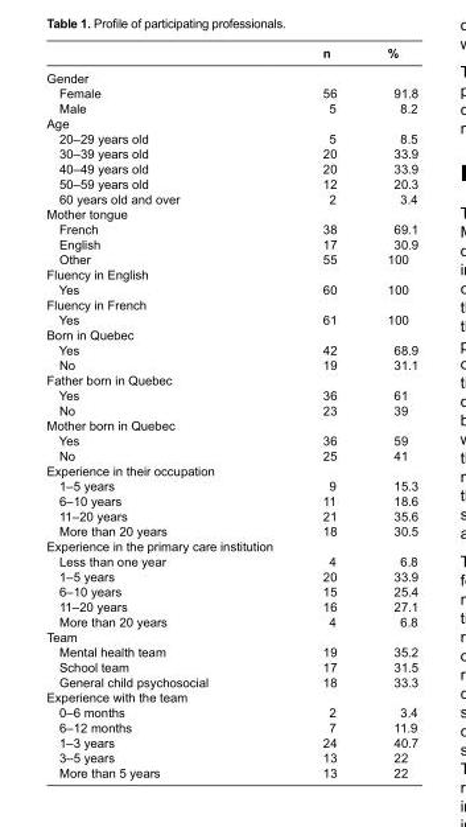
<table><thead><tr><td></td><td>n</td><td>%</td></tr></thead><tbody><tr><td colspan="3">Gender</td></tr><tr><td>Female</td><td>56</td><td>91.8</td></tr><tr><td>Male</td><td>5</td><td>8.2</td></tr><tr><td colspan="3">Age</td></tr><tr><td>20–29 years old</td><td>5</td><td>8.5</td></tr><tr><td>30–39 years old</td><td>20</td><td>33.9</td></tr><tr><td>40–49 years old</td><td>20</td><td>33.9</td></tr><tr><td>50–59 years old</td><td>12</td><td>20.3</td></tr><tr><td>60 years old and over</td><td>2</td><td>3.4</td></tr><tr><td colspan="3">Mother tongue</td></tr><tr><td>French</td><td>38</td><td>69.1</td></tr><tr><td>English</td><td>17</td><td>30.9</td></tr><tr><td>Other</td><td>55</td><td>100</td></tr><tr><td colspan="3">Fluency in English</td></tr><tr><td>Yes</td><td>60</td><td>100</td></tr><tr><td colspan="3">Fluency in French</td></tr><tr><td>Yes</td><td>61</td><td>100</td></tr><tr><td colspan="3">Born in Quebec</td></tr><tr><td>Yes</td><td>42</td><td>68.9</td></tr><tr><td>No</td><td>19</td><td>31.1</td></tr><tr><td colspan="3">Father born in Quebec</td></tr><tr><td>Yes</td><td>36</td><td>61</td></tr><tr><td>No</td><td>23</td><td>39</td></tr><tr><td colspan="3">Mother born in Quebec</td></tr><tr><td>Yes</td><td>36</td><td>59</td></tr><tr><td>No</td><td>25</td><td>41</td></tr><tr><td colspan="3">Experience in their occupation</td></tr><tr><td>1–5 years</td><td>9</td><td>15.3</td></tr><tr><td>6–10 years</td><td>11</td><td>18.6</td></tr><tr><td>11–20 years</td><td>21</td><td>35.6</td></tr><tr><td>More than 20 years</td><td>18</td><td>30.5</td></tr><tr><td colspan="3">Experience in the primary care institution</td></tr><tr><td>Less than one year</td><td>4</td><td>6.8</td></tr><tr><td>1–5 years</td><td>20</td><td>33.9</td></tr><tr><td>6–10 years</td><td>15</td><td>25.4</td></tr><tr><td>11–20 years</td><td>16</td><td>27.1</td></tr><tr><td>More than 20 years</td><td>4</td><td>6.8</td></tr><tr><td colspan="3">Team</td></tr><tr><td>Mental health team</td><td>19</td><td>35.2</td></tr><tr><td>School team</td><td>17</td><td>31.5</td></tr><tr><td>General child psychosocial</td><td>18</td><td>33.3</td></tr><tr><td colspan="3">Experience with the team</td></tr><tr><td>0–6 months</td><td>2</td><td>3.4</td></tr><tr><td>6–12 months</td><td>7</td><td>11.9</td></tr><tr><td>1–3 years</td><td>24</td><td>40.7</td></tr><tr><td>3–5 years</td><td>13</td><td>22</td></tr><tr><td>More than 5 years</td><td>13</td><td>22</td></tr></tbody></table>